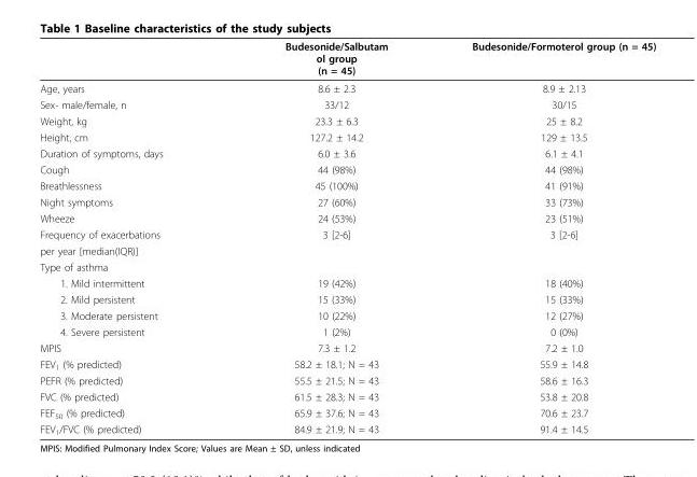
<table><thead><tr><td></td><td>Budesonide/Salbutam ol group (n = 45)</td><td>Budesonide/Formoterol group (n = 45)</td></tr></thead><tbody><tr><td>Age, years</td><td>8.6 ± 2.3</td><td>8.9 ± 2.13</td></tr><tr><td>Sex- male/female, n</td><td>33/12</td><td>30/15</td></tr><tr><td>Weight, kg</td><td>23.3 ± 6.3</td><td>25 ± 8.2</td></tr><tr><td>Height, cm</td><td>127.2 ± 14.2</td><td>129 ± 13.5</td></tr><tr><td>Duration of symptoms, days</td><td>6.0 ± 3.6</td><td>6.1 ± 4.1</td></tr><tr><td>Cough</td><td>44 (98%)</td><td>44 (98%)</td></tr><tr><td>Breathlessness</td><td>45 (100%)</td><td>41 (91%)</td></tr><tr><td>Night symptoms</td><td>27 (60%)</td><td>33 (73%)</td></tr><tr><td>Wheeze</td><td>24 (53%)</td><td>23 (51%)</td></tr><tr><td>Frequency of exacerbations</td><td>3 [2-6]</td><td>3 [2-6]</td></tr><tr><td colspan="3">per year [median(IQR)]</td></tr><tr><td colspan="3">Type of asthma</td></tr><tr><td>1. Mild intermittent</td><td>19 (42%)</td><td>18 (40%)</td></tr><tr><td>2. Mild persistent</td><td>15 (33%)</td><td>15 (33%)</td></tr><tr><td>3. Moderate persistent</td><td>10 (22%)</td><td>12 (27%)</td></tr><tr><td>4. Severe persistent</td><td>1 (2%)</td><td>0 (0%)</td></tr><tr><td>MPIS</td><td>7.3 ± 1.2</td><td>7.2 ± 1.0</td></tr><tr><td>FEV<sub>1</sub> (% predicted)</td><td>58.2 ± 18.1; N = 43</td><td>55.9 ± 14.8</td></tr><tr><td>PEFR (% predicted)</td><td>55.5 ± 21.5; N = 43</td><td>58.6 ± 16.3</td></tr><tr><td>FVC (% predicted)</td><td>61.5 ± 28.3; N = 43</td><td>53.8 ± 20.8</td></tr><tr><td>FEF<sub>50</sub> (% predicted)</td><td>65.9 ± 37.6; N = 43</td><td>70.6 ± 23.7</td></tr><tr><td>FEV<sub>1</sub>/FVC (% predicted)</td><td>84.9 ± 21.9; N = 43</td><td>91.4 ± 14.5</td></tr></tbody></table>